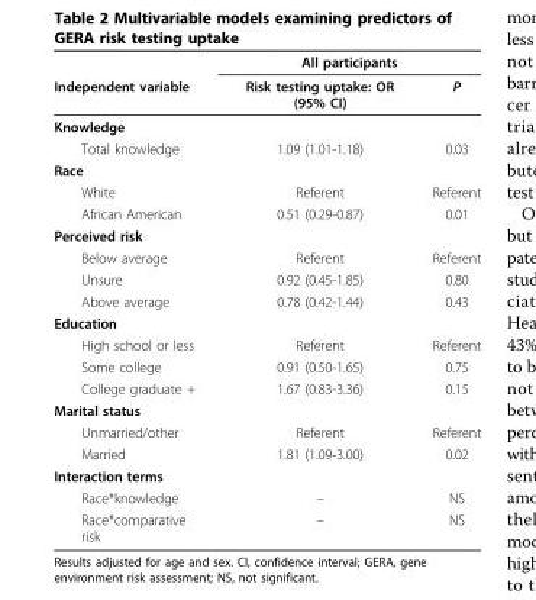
<table><thead><tr><td rowspan="2">Independent variable</td><td colspan="2">All participants</td></tr><tr><td>Risk testing uptake: OR (95% CI)</td><td>P</td></tr></thead><tbody><tr><td colspan="3">Knowledge</td></tr><tr><td>Total knowledge</td><td>1.09 (1.01-1.18)</td><td>0.03</td></tr><tr><td colspan="3">Race</td></tr><tr><td>White</td><td>Referent</td><td>Referent</td></tr><tr><td>African American</td><td>0.51 (0.29-0.87)</td><td>0.01</td></tr><tr><td colspan="3">Perceived risk</td></tr><tr><td>Below average</td><td>Referent</td><td>Referent</td></tr><tr><td>Unsure</td><td>0.92 (0.45-1.85)</td><td>0.80</td></tr><tr><td>Above average</td><td>0.78 (0.42-1.44)</td><td>0.43</td></tr><tr><td colspan="3">Education</td></tr><tr><td>High school or less</td><td>Referent</td><td>Referent</td></tr><tr><td>Some college</td><td>0.91 (0.50-1.65)</td><td>0.75</td></tr><tr><td>College graduate +</td><td>1.67 (0.83-3.36)</td><td>0.15</td></tr><tr><td colspan="3">Marital status</td></tr><tr><td>Unmarried/other</td><td>Referent</td><td>Referent</td></tr><tr><td>Married</td><td>1.81 (1.09-3.00)</td><td>0.02</td></tr><tr><td colspan="3">Interaction terms</td></tr><tr><td>Race*knowledge</td><td>–</td><td>NS</td></tr><tr><td>Race*comparative risk</td><td>–</td><td>NS</td></tr></tbody></table>